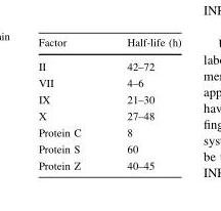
<table><thead><tr><td>Factor</td><td>Half-life (h)</td></tr></thead><tbody><tr><td>II</td><td>42–72</td></tr><tr><td>VII</td><td>4–6</td></tr><tr><td>IX</td><td>21–30</td></tr><tr><td>X</td><td>27–48</td></tr><tr><td>Protein C</td><td>8</td></tr><tr><td>Protein S Protein Z</td><td>60 40–45</td></tr></tbody></table>